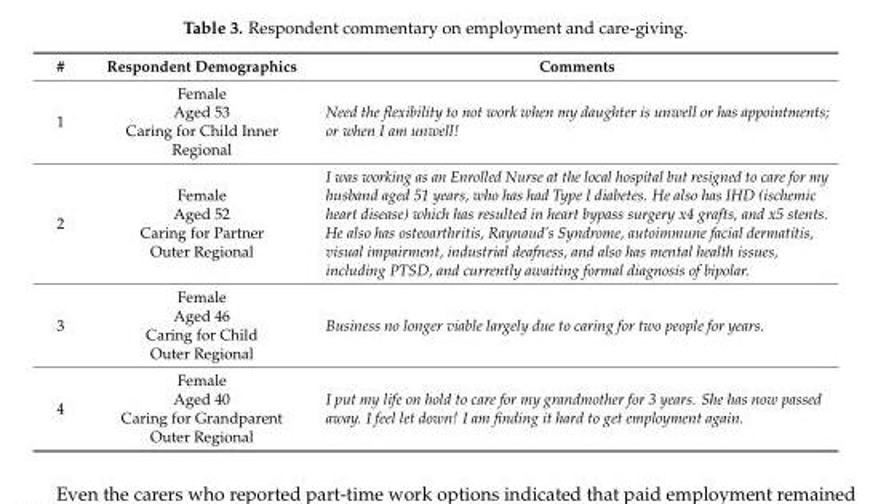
<table><thead><tr><td>#</td><td>Respondent Demographics</td><td>Comments</td></tr></thead><tbody><tr><td>1</td><td>Female Aged 53 Caring for Child Inner Regional</td><td>Need the flexibility to not work when my daughter is unwell or has appointments; or when I am unwell!</td></tr><tr><td>2</td><td>Female Aged 52 Caring for Partner Outer Regional</td><td>I was working as an Enrolled Nurse at the local hospital but resigned to care for my husband aged 51 years, who has had Type I diabetes. He also has IHD (ischemic heart disease) which has resulted in heart bypass surgery x4 grafts, and x5 stents. He also has osteoarthritis, Raynaud’s Syndrome, autoimmune facial dermatitis, visual impairment, industrial deafness, and also has mental health issues, including PTSD, and currently awaiting formal diagnosis of bipolar.</td></tr><tr><td>3</td><td>Female Aged 46 Caring for Child Outer Regional</td><td>Business no longer viable largely due to caring for two people for years.</td></tr><tr><td>4</td><td>Female Aged 40 Caring for Grandparent Outer Regional</td><td>I put my life on hold to care for my grandmother for 3 years. She has now passed away. I feel let down! I am finding it hard to get employment again.</td></tr></tbody></table>